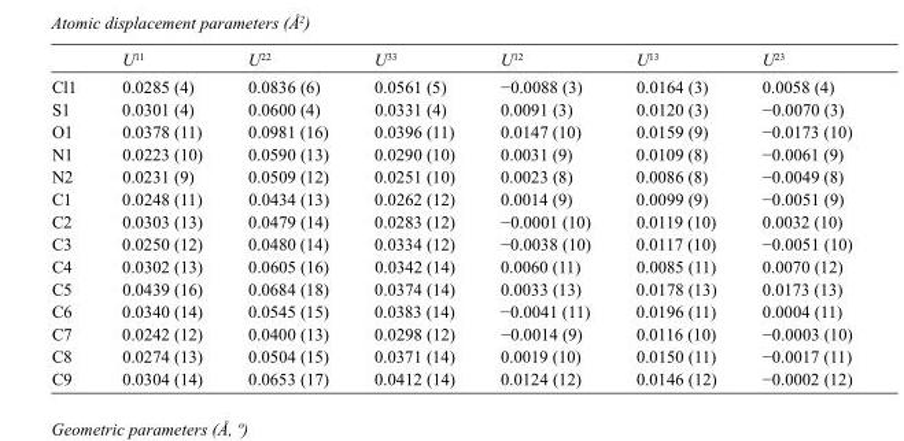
<table><thead><tr><td></td><td>U<sup>11</sup></td><td>U<sup>22</sup></td><td>U<sup>33</sup></td><td>U<sup>12</sup></td><td>U<sup>13</sup></td><td>U<sup>23</sup></td></tr></thead><tbody><tr><td>Cl1</td><td>0.0285 (4)</td><td>0.0836 (6)</td><td>0.0561 (5)</td><td>−0.0088 (3)</td><td>0.0164 (3)</td><td>0.0058 (4)</td></tr><tr><td>S1</td><td>0.0301 (4)</td><td>0.0600 (4)</td><td>0.0331 (4)</td><td>0.0091 (3)</td><td>0.0120 (3)</td><td>−0.0070 (3)</td></tr><tr><td>O1</td><td>0.0378 (11)</td><td>0.0981 (16)</td><td>0.0396 (11)</td><td>0.0147 (10)</td><td>0.0159 (9)</td><td>−0.0173 (10)</td></tr><tr><td>N1</td><td>0.0223 (10)</td><td>0.0590 (13)</td><td>0.0290 (10)</td><td>0.0031 (9)</td><td>0.0109 (8)</td><td>−0.0061 (9)</td></tr><tr><td>N2</td><td>0.0231 (9)</td><td>0.0509 (12)</td><td>0.0251 (10)</td><td>0.0023 (8)</td><td>0.0086 (8)</td><td>−0.0049 (8)</td></tr><tr><td>C1</td><td>0.0248 (11)</td><td>0.0434 (13)</td><td>0.0262 (12)</td><td>0.0014 (9)</td><td>0.0099 (9)</td><td>−0.0051 (9)</td></tr><tr><td>C2</td><td>0.0303 (13)</td><td>0.0479 (14)</td><td>0.0283 (12)</td><td>−0.0001 (10)</td><td>0.0119 (10)</td><td>0.0032 (10)</td></tr><tr><td>C3</td><td>0.0250 (12)</td><td>0.0480 (14)</td><td>0.0334 (12)</td><td>−0.0038 (10)</td><td>0.0117 (10)</td><td>−0.0051 (10)</td></tr><tr><td>C4</td><td>0.0302 (13)</td><td>0.0605 (16)</td><td>0.0342 (14)</td><td>0.0060 (11)</td><td>0.0085 (11)</td><td>0.0070 (12)</td></tr><tr><td>C5</td><td>0.0439 (16)</td><td>0.0684 (18)</td><td>0.0374 (14)</td><td>0.0033 (13)</td><td>0.0178 (13)</td><td>0.0173 (13)</td></tr><tr><td>C6</td><td>0.0340 (14)</td><td>0.0545 (15)</td><td>0.0383 (14)</td><td>−0.0041 (11)</td><td>0.0196 (11)</td><td>0.0004 (11)</td></tr><tr><td>C7</td><td>0.0242 (12)</td><td>0.0400 (13)</td><td>0.0298 (12)</td><td>−0.0014 (9)</td><td>0.0116 (10)</td><td>−0.0003 (10)</td></tr><tr><td>C8</td><td>0.0274 (13)</td><td>0.0504 (15)</td><td>0.0371 (14)</td><td>0.0019 (10)</td><td>0.0150 (11)</td><td>−0.0017 (11)</td></tr><tr><td>C9</td><td>0.0304 (14)</td><td>0.0653 (17)</td><td>0.0412 (14)</td><td>0.0124 (12)</td><td>0.0146 (12)</td><td>−0.0002 (12)</td></tr></tbody></table>